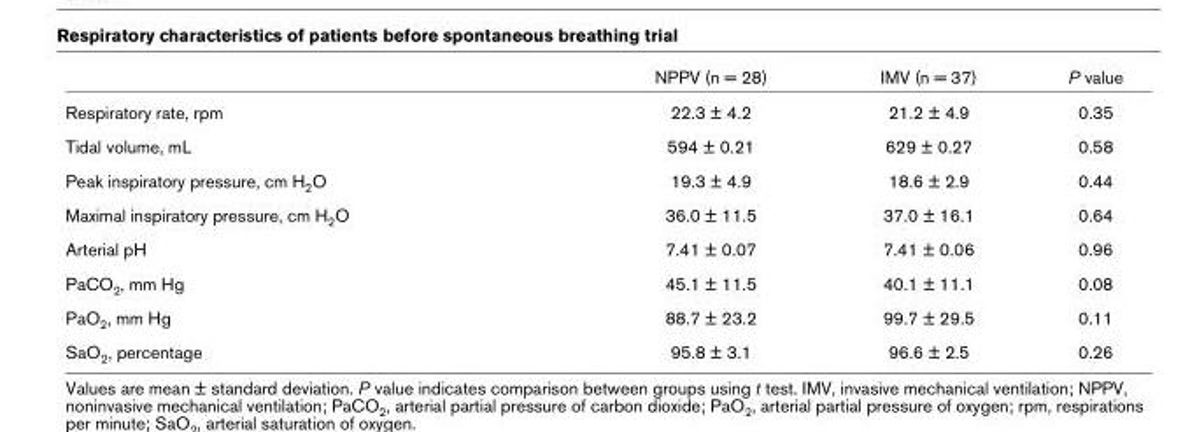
<table><thead><tr><td></td><td>NPPV (n = 28)</td><td>IMV (n = 37)</td><td>P value</td></tr></thead><tbody><tr><td>Respiratory rate, rpm</td><td>22.3 ± 4.2</td><td>21.2 ± 4.9</td><td>0.35</td></tr><tr><td>Tidal volume, mL</td><td>594 ± 0.21</td><td>629 ± 0.27</td><td>0.58</td></tr><tr><td>Peak inspiratory pressure, cm H<sub>2</sub>O</td><td>19.3 ± 4.9</td><td>18.6 ± 2.9</td><td>0.44</td></tr><tr><td>Maximal inspiratory pressure, cm H<sub>2</sub>O</td><td>36.0 ± 11.5</td><td>37.0 ± 16.1</td><td>0.64</td></tr><tr><td>Arterial pH</td><td>7.41 ± 0.07</td><td>7.41 ± 0.06</td><td>0.96</td></tr><tr><td>PaCO<sub>2</sub>, mm Hg</td><td>45.1 ± 11.5</td><td>40.1 ± 11.1</td><td>0.08</td></tr><tr><td>PaO<sub>2</sub>, mm Hg</td><td>88.7 ± 23.2</td><td>99.7 ± 29.5</td><td>0.11</td></tr><tr><td>SaO<sub>2</sub>, percentage</td><td>95.8 ± 3.1</td><td>96.6 ± 2.5</td><td>0.26</td></tr></tbody></table>